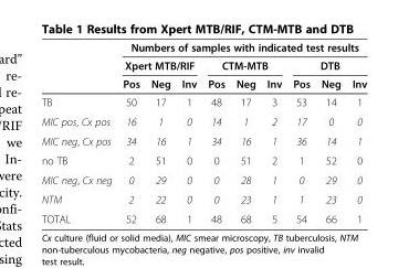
<table><thead><tr><td rowspan="3"></td><td colspan="9">Numbers of samples with indicated test results</td></tr><tr><td colspan="3">Xpert MTB/RIF</td><td colspan="3">CTM-MTB</td><td colspan="3">DTB</td></tr><tr><td>Pos</td><td>Neg</td><td>Inv</td><td>Pos</td><td>Neg</td><td>Inv</td><td>Pos</td><td>Neg</td><td>Inv</td></tr></thead><tbody><tr><td>TB</td><td>50</td><td>17</td><td>1</td><td>48</td><td>17</td><td>3</td><td>53</td><td>14</td><td>1</td></tr><tr><td>MIC pos, Cx pos</td><td>16</td><td>1</td><td>0</td><td>14</td><td>1</td><td>2</td><td>17</td><td>0</td><td>0</td></tr><tr><td>MIC neg, Cx pos</td><td>34</td><td>16</td><td>1</td><td>34</td><td>16</td><td>1</td><td>36</td><td>14</td><td>1</td></tr><tr><td>no TB</td><td>2</td><td>51</td><td>0</td><td>0</td><td>51</td><td>2</td><td>1</td><td>52</td><td>0</td></tr><tr><td>MIC neg, Cx neg</td><td>0</td><td>29</td><td>0</td><td>0</td><td>28</td><td>1</td><td>0</td><td>29</td><td>0</td></tr><tr><td>NTM</td><td>2</td><td>22</td><td>0</td><td>0</td><td>23</td><td>1</td><td>1</td><td>23</td><td>0</td></tr><tr><td>TOTAL</td><td>52</td><td>68</td><td>1</td><td>48</td><td>68</td><td>5</td><td>54</td><td>66</td><td>1</td></tr></tbody></table>